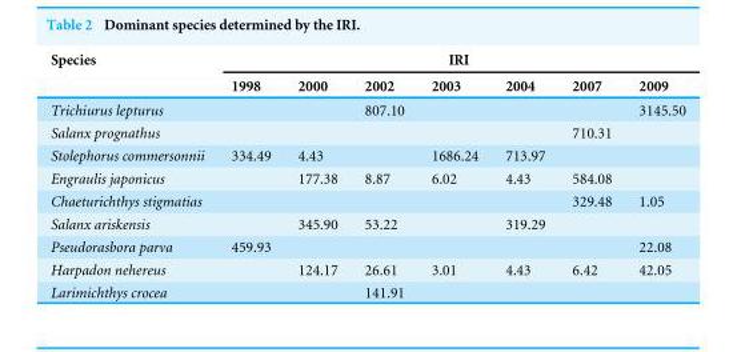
<table><thead><tr><td rowspan="2">Species</td><td colspan="7">IRI</td></tr><tr><td>1998</td><td>2000</td><td>2002</td><td>2003</td><td>2004</td><td>2007</td><td>2009</td></tr></thead><tbody><tr><td>Trichiurus lepturus</td><td></td><td></td><td>807.10</td><td></td><td></td><td></td><td>3145.50</td></tr><tr><td>Salanx prognathus</td><td></td><td></td><td></td><td></td><td></td><td>710.31</td><td></td></tr><tr><td>Stolephorus commersonnii</td><td>334.49</td><td>4.43</td><td></td><td>1686.24</td><td>713.97</td><td></td><td></td></tr><tr><td>Engraulis japonicus</td><td></td><td>177.38</td><td>8.87</td><td>6.02</td><td>4.43</td><td>584.08</td><td></td></tr><tr><td>Chaeturichthys stigmatias</td><td></td><td></td><td></td><td></td><td></td><td>329.48</td><td>1.05</td></tr><tr><td>Salanx ariskensis</td><td></td><td>345.90</td><td>53.22</td><td></td><td>319.29</td><td></td><td></td></tr><tr><td>Pseudorasbora parva</td><td>459.93</td><td></td><td></td><td></td><td></td><td></td><td>22.08</td></tr><tr><td>Harpadon nehereus</td><td></td><td>124.17</td><td>26.61</td><td>3.01</td><td>4.43</td><td>6.42</td><td>42.05</td></tr><tr><td>Larimichthys crocea</td><td></td><td></td><td>141.91</td><td></td><td></td><td></td><td></td></tr></tbody></table>